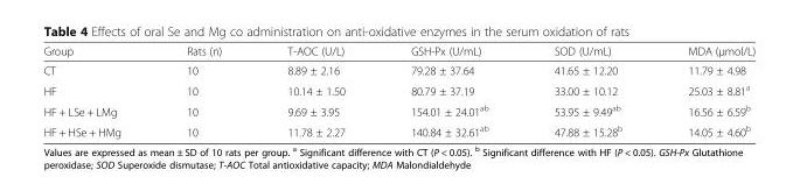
<table><thead><tr><td>Group</td><td>Rats (n)</td><td>T-AOC (U/L)</td><td>GSH-Px (U/mL)</td><td>SOD (U/mL)</td><td>MDA (μmol/L)</td></tr></thead><tbody><tr><td>CT</td><td>10</td><td>8.89 ± 2.16</td><td>79.28 ± 37.64</td><td>41.65 ± 12.20</td><td>11.79 ± 4.98</td></tr><tr><td>HF</td><td>10</td><td>10.14 ± 1.50</td><td>80.79 ± 37.19</td><td>33.00 ± 10.12</td><td>25.03 ± 8.81<sup>a</sup></td></tr><tr><td>HF + LSe + LMg</td><td>10</td><td>9.69 ± 3.95</td><td>154.01 ± 24.01<sup>ab</sup></td><td>53.95 ± 9.49<sup>ab</sup></td><td>16.56 ± 6.59<sup>b</sup></td></tr><tr><td>HF + HSe + HMg</td><td>10</td><td>11.78 ± 2.27</td><td>140.84 ± 32.61<sup>ab</sup></td><td>47.88 ± 15.28<sup>b</sup></td><td>14.05 ± 4.60<sup>b</sup></td></tr></tbody></table>